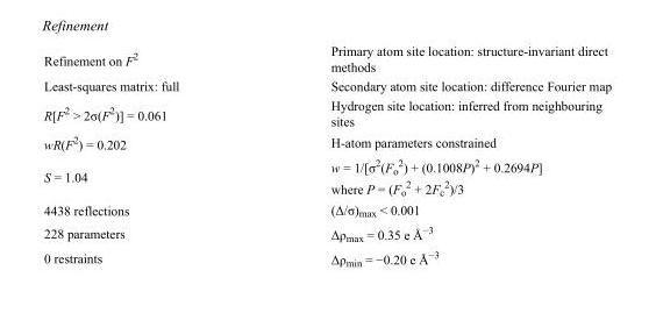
<table><tbody><tr><td>Refinement on F<sup>2</sup></td><td>Primary atom site location: structure-invariant direct methods</td></tr><tr><td>Least-squares matrix: full</td><td>Secondary atom site location: difference Fourier map</td></tr><tr><td>R[F<sup>2</sup> &gt; 2σ(F<sup>2</sup>)] = 0.061</td><td>Hydrogen site location: inferred from neighbouring sites</td></tr><tr><td>wR(F<sup>2</sup>) = 0.202</td><td>H-atom parameters constrained</td></tr><tr><td>S = 1.04</td><td>w = 1/[σ<sup>2</sup>(F<sub>o</sub> <sup>2</sup>) + (0.1008P)<sup>2</sup> + 0.2694P] where P = (F<sub>o</sub> <sup>2</sup> + 2F<sub>c</sub> <sup>2</sup>)/3</td></tr><tr><td>4438 reflections</td><td>(Δ/σ)<sub>max</sub> &lt; 0.001</td></tr><tr><td>228 parameters</td><td>Δρ<sub>max</sub> = 0.35 e Å<sup>−3</sup></td></tr><tr><td>0 restraints</td><td>Δρ<sub>min</sub> = −0.20 e Å<sup>−3</sup></td></tr></tbody></table>